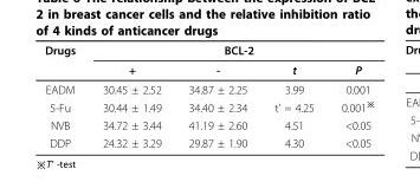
<table><thead><tr><td rowspan="2">Drugs</td><td colspan="4">BCL-2</td></tr><tr><td>+</td><td>-</td><td>t</td><td>P</td></tr></thead><tbody><tr><td>EADM</td><td>30.45 ± 2.52</td><td>34.87 ± 2.25</td><td>3.99</td><td>0.001</td></tr><tr><td>5-Fu</td><td>30.44 ± 1.49</td><td>34.40 ± 2.34</td><td>t’ = 4.25</td><td>0.001<sup>※</sup></td></tr><tr><td>NVB</td><td>34.72 ± 3.44</td><td>41.19 ± 2.60</td><td>4.51</td><td>&lt;0.05</td></tr><tr><td>DDP</td><td>24.32 ± 3.29</td><td>29.87 ± 1.90</td><td>4.30</td><td>&lt;0.05</td></tr></tbody></table>